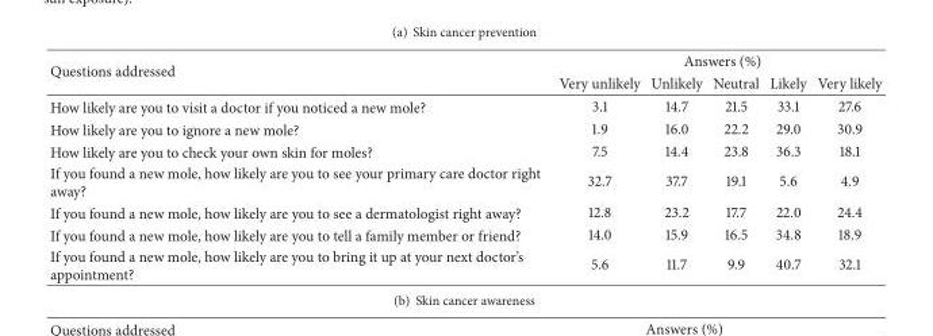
<table><thead><tr><td rowspan="2">Questions addressed</td><td colspan="5">Answers (%)</td></tr><tr><td>Very unlikely</td><td>Unlikely</td><td>Neutral</td><td>Likely</td><td>Very likely</td></tr></thead><tbody><tr><td>How likely are you to visit a doctor if you noticed a new mole?</td><td>3.1</td><td>14.7</td><td>21.5</td><td>33.1</td><td>27.6</td></tr><tr><td>How likely are you to ignore a new mole?</td><td>1.9</td><td>16.0</td><td>22.2</td><td>29.0</td><td>30.9</td></tr><tr><td>How likely are you to check your own skin for moles?</td><td>7.5</td><td>14.4</td><td>23.8</td><td>36.3</td><td>18.1</td></tr><tr><td>If you found a new mole, how likely are you to see your primary care doctor right away?</td><td>32.7</td><td>37.7</td><td>19.1</td><td>5.6</td><td>4.9</td></tr><tr><td>If you found a new mole, how likely are you to see a dermatologist right away?</td><td>12.8</td><td>23.2</td><td>17.7</td><td>22.0</td><td>24.4</td></tr><tr><td>If you found a new mole, how likely are you to tell a family member or friend?</td><td>14.0</td><td>15.9</td><td>16.5</td><td>34.8</td><td>18.9</td></tr><tr><td>If you found a new mole, how likely are you to bring it up at your next doctor’s appointment?</td><td>5.6</td><td>11.7</td><td>9.9</td><td>40.7</td><td>32.1</td></tr></tbody></table>